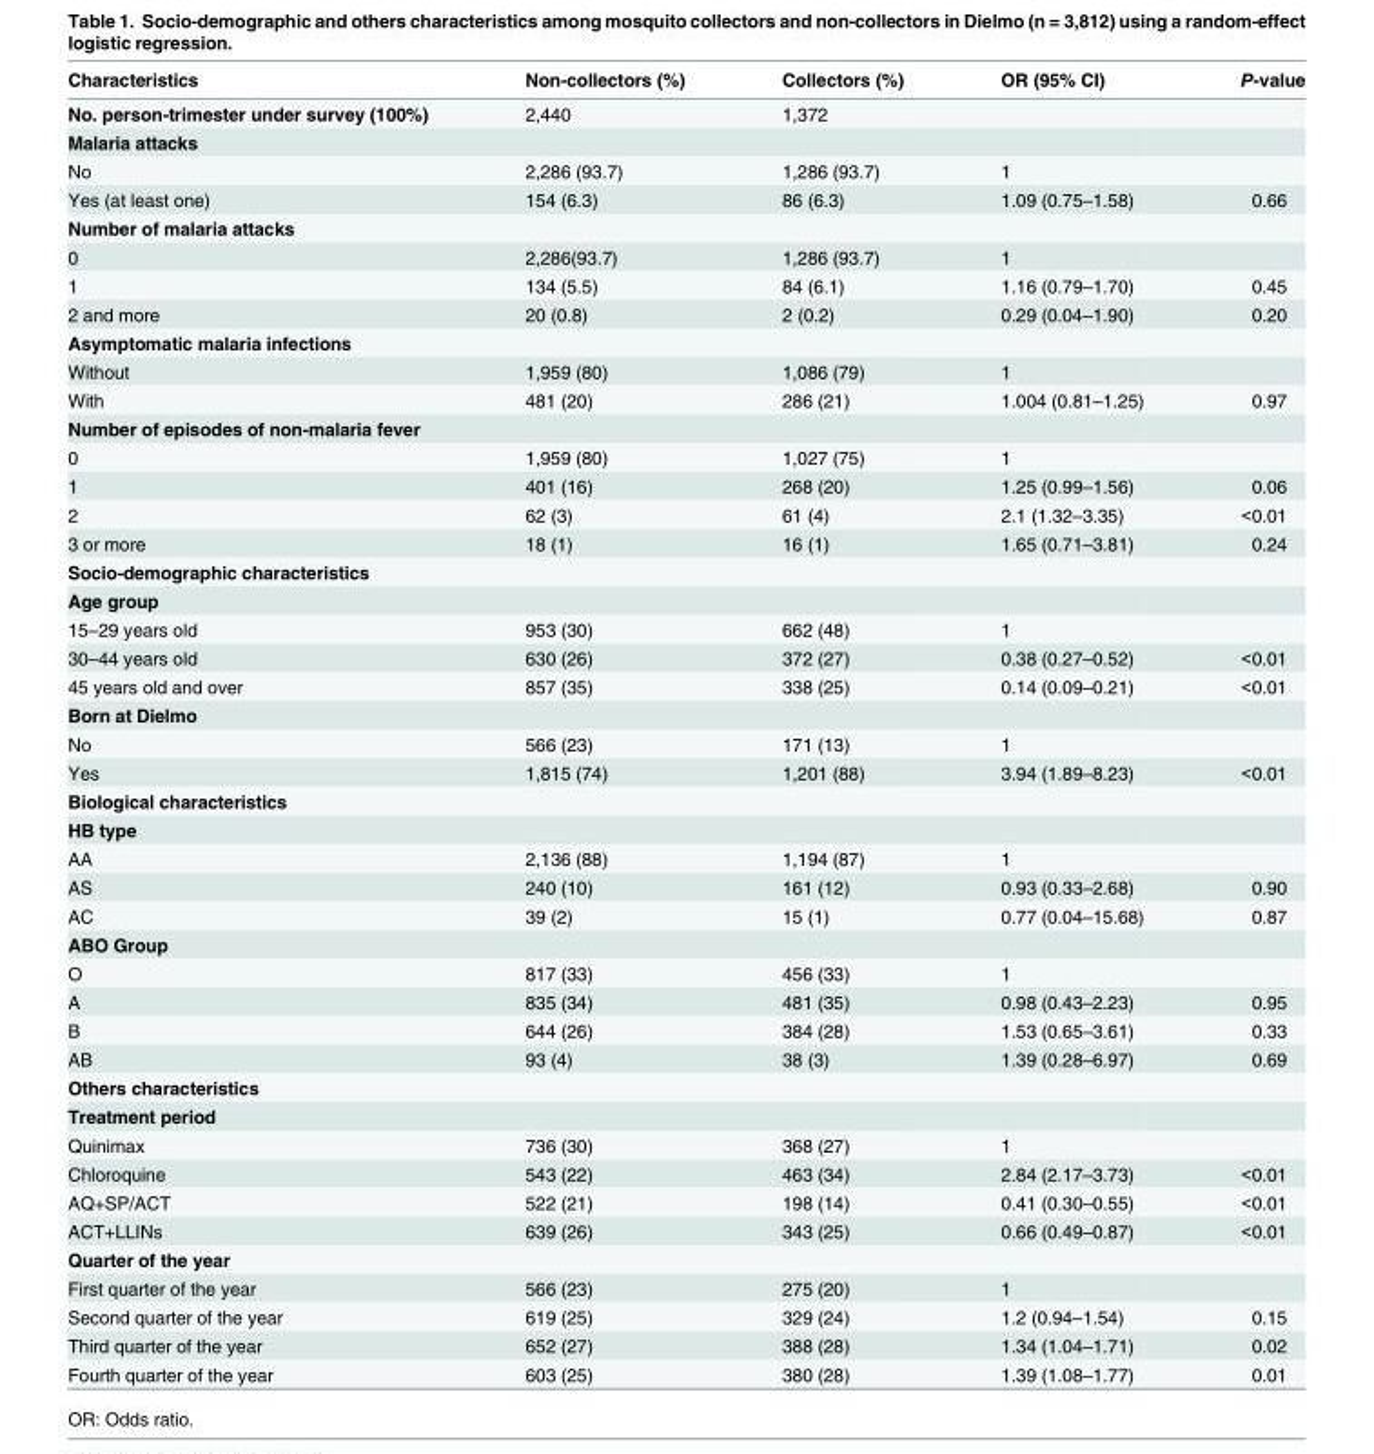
<table><thead><tr><td>Characteristics</td><td>Non-collectors (%)</td><td>Collectors (%)</td><td>OR (95% CI)</td><td>P-value</td></tr></thead><tbody><tr><td>No. person-trimester under survey (100%)</td><td>2,440</td><td>1,372</td><td></td><td></td></tr><tr><td colspan="5">Malaria attacks</td></tr><tr><td>No</td><td>2,286 (93.7)</td><td>1,286 (93.7)</td><td>1</td><td></td></tr><tr><td>Yes (at least one)</td><td>154 (6.3)</td><td>86 (6.3)</td><td>1.09 (0.75–1.58)</td><td>0.66</td></tr><tr><td colspan="5">Number of malaria attacks</td></tr><tr><td>0</td><td>2,286(93.7)</td><td>1,286 (93.7)</td><td>1</td><td></td></tr><tr><td>1</td><td>134 (5.5)</td><td>84 (6.1)</td><td>1.16 (0.79–1.70)</td><td>0.45</td></tr><tr><td>2 and more</td><td>20 (0.8)</td><td>2 (0.2)</td><td>0.29 (0.04–1.90)</td><td>0.20</td></tr><tr><td colspan="5">Asymptomatic malaria infections</td></tr><tr><td>Without</td><td>1,959 (80)</td><td>1,086 (79)</td><td>1</td><td></td></tr><tr><td>With</td><td>481 (20)</td><td>286 (21)</td><td>1.004 (0.81–1.25)</td><td>0.97</td></tr><tr><td colspan="5">Number of episodes of non-malaria fever</td></tr><tr><td>0</td><td>1,959 (80)</td><td>1,027 (75)</td><td>1</td><td></td></tr><tr><td>1</td><td>401 (16)</td><td>268 (20)</td><td>1.25 (0.99–1.56)</td><td>0.06</td></tr><tr><td>2</td><td>62 (3)</td><td>61 (4)</td><td>2.1 (1.32–3.35)</td><td>&lt;0.01</td></tr><tr><td>3 or more</td><td>18 (1)</td><td>16 (1)</td><td>1.65 (0.71–3.81)</td><td>0.24</td></tr><tr><td colspan="5">Socio-demographic characteristics</td></tr><tr><td colspan="5">Age group</td></tr><tr><td>15–29 years old</td><td>953 (30)</td><td>662 (48)</td><td>1</td><td></td></tr><tr><td>30–44 years old</td><td>630 (26)</td><td>372 (27)</td><td>0.38 (0.27–0.52)</td><td>&lt;0.01</td></tr><tr><td>45 years old and over</td><td>857 (35)</td><td>338 (25)</td><td>0.14 (0.09–0.21)</td><td>&lt;0.01</td></tr><tr><td colspan="5">Born at Dielmo</td></tr><tr><td>No</td><td>566 (23)</td><td>171 (13)</td><td>1</td><td></td></tr><tr><td>Yes</td><td>1,815 (74)</td><td>1,201 (88)</td><td>3.94 (1.89–8.23)</td><td>&lt;0.01</td></tr><tr><td colspan="5">Biological characteristics</td></tr><tr><td colspan="5">HB type</td></tr><tr><td>AA</td><td>2,136 (88)</td><td>1,194 (87)</td><td>1</td><td></td></tr><tr><td>AS</td><td>240 (10)</td><td>161 (12)</td><td>0.93 (0.33–2.68)</td><td>0.90</td></tr><tr><td>AC</td><td>39 (2)</td><td>15 (1)</td><td>0.77 (0.04–15.68)</td><td>0.87</td></tr><tr><td colspan="5">ABO Group</td></tr><tr><td>O</td><td>817 (33)</td><td>456 (33)</td><td>1</td><td></td></tr><tr><td>A</td><td>835 (34)</td><td>481 (35)</td><td>0.98 (0.43–2.23)</td><td>0.95</td></tr><tr><td>B</td><td>644 (26)</td><td>384 (28)</td><td>1.53 (0.65–3.61)</td><td>0.33</td></tr><tr><td>AB</td><td>93 (4)</td><td>38 (3)</td><td>1.39 (0.28–6.97)</td><td>0.69</td></tr><tr><td colspan="5">Others characteristics</td></tr><tr><td colspan="5">Treatment period</td></tr><tr><td>Quinimax</td><td>736 (30)</td><td>368 (27)</td><td>1</td><td></td></tr><tr><td>Chloroquine</td><td>543 (22)</td><td>463 (34)</td><td>2.84 (2.17–3.73)</td><td>&lt;0.01</td></tr><tr><td>AQ+SP/ACT</td><td>522 (21)</td><td>198 (14)</td><td>0.41 (0.30–0.55)</td><td>&lt;0.01</td></tr><tr><td>ACT+LLINs</td><td>639 (26)</td><td>343 (25)</td><td>0.66 (0.49–0.87)</td><td>&lt;0.01</td></tr><tr><td colspan="5">Quarter of the year</td></tr><tr><td>First quarter of the year</td><td>566 (23)</td><td>275 (20)</td><td>1</td><td></td></tr><tr><td>Second quarter of the year</td><td>619 (25)</td><td>329 (24)</td><td>1.2 (0.94–1.54)</td><td>0.15</td></tr><tr><td>Third quarter of the year</td><td>652 (27)</td><td>388 (28)</td><td>1.34 (1.04–1.71)</td><td>0.02</td></tr><tr><td>Fourth quarter of the year</td><td>603 (25)</td><td>380 (28)</td><td>1.39 (1.08–1.77)</td><td>0.01</td></tr></tbody></table>